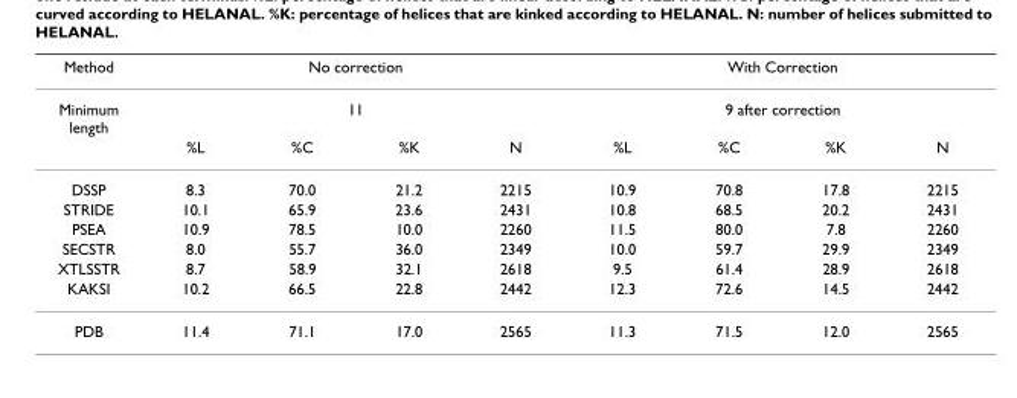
<table><thead><tr><td rowspan="3">Method Minimum length</td><td rowspan="2" colspan="4">No correction 11</td><td rowspan="2" colspan="4">With Correction 9 after correction</td></tr><tr></tr><tr><td>%L</td><td>%C</td><td>%K</td><td>N</td><td>%L</td><td>%C</td><td>%K</td><td>N</td></tr></thead><tbody><tr><td>DSSP</td><td>8.3</td><td>70.0</td><td>21.2</td><td>2215</td><td>10.9</td><td>70.8</td><td>17.8</td><td>2215</td></tr><tr><td>STRIDE</td><td>10.1</td><td>65.9</td><td>23.6</td><td>2431</td><td>10.8</td><td>68.5</td><td>20.2</td><td>2431</td></tr><tr><td>PSEA</td><td>10.9</td><td>78.5</td><td>10.0</td><td>2260</td><td>11.5</td><td>80.0</td><td>7.8</td><td>2260</td></tr><tr><td>SECSTR</td><td>8.0</td><td>55.7</td><td>36.0</td><td>2349</td><td>10.0</td><td>59.7</td><td>29.9</td><td>2349</td></tr><tr><td>XTLSSTR</td><td>8.7</td><td>58.9</td><td>32.1</td><td>2618</td><td>9.5</td><td>61.4</td><td>28.9</td><td>2618</td></tr><tr><td>KAKSI</td><td>10.2</td><td>66.5</td><td>22.8</td><td>2442</td><td>12.3</td><td>72.6</td><td>14.5</td><td>2442</td></tr><tr><td>PDB</td><td>11.4</td><td>71.1</td><td>17.0</td><td>2565</td><td>11.3</td><td>71.5</td><td>12.0</td><td>2565</td></tr></tbody></table>